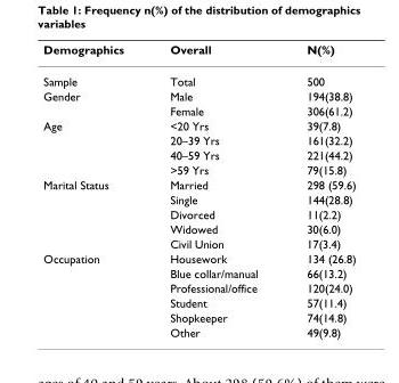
<table><thead><tr><td>Demographics</td><td>Overall</td><td>N(%)</td></tr></thead><tbody><tr><td>Sample</td><td>Total</td><td>500</td></tr><tr><td rowspan="2">Gender</td><td>Male</td><td>194(38.8)</td></tr><tr><td>Female</td><td>306(61.2)</td></tr><tr><td rowspan="4">Age</td><td>&lt;20 Yrs</td><td>39(7.8)</td></tr><tr><td>20–39 Yrs</td><td>161(32.2)</td></tr><tr><td>40–59 Yrs</td><td>221(44.2)</td></tr><tr><td>&gt;59 Yrs</td><td>79(15.8)</td></tr><tr><td rowspan="5">Marital Status</td><td>Married</td><td>298 (59.6)</td></tr><tr><td>Single</td><td>144(28.8)</td></tr><tr><td>Divorced</td><td>11(2.2)</td></tr><tr><td>Widowed</td><td>30(6.0)</td></tr><tr><td>Civil Union</td><td>17(3.4)</td></tr><tr><td rowspan="6">Occupation</td><td>Housework</td><td>134 (26.8)</td></tr><tr><td>Blue collar/manual</td><td>66(13.2)</td></tr><tr><td>Professional/office</td><td>120(24.0)</td></tr><tr><td>Student</td><td>57(11.4)</td></tr><tr><td>Shopkeeper</td><td>74(14.8)</td></tr><tr><td>Other</td><td>49(9.8)</td></tr></tbody></table>